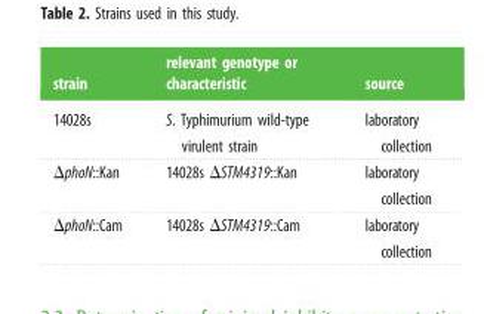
<table><thead><tr><td>strain</td><td>relevant genotype or characteristic</td><td>source</td></tr></thead><tbody><tr><td>14028s</td><td>S. Typhimurium wild-type virulent strain</td><td>laboratory collection</td></tr><tr><td>ΔphoN::Kan</td><td>14028s ΔSTM4319::Kan</td><td>laboratory collection</td></tr><tr><td>ΔphoN::Cam</td><td>14028s ΔSTM4319::Cam</td><td>laboratory collection</td></tr></tbody></table>